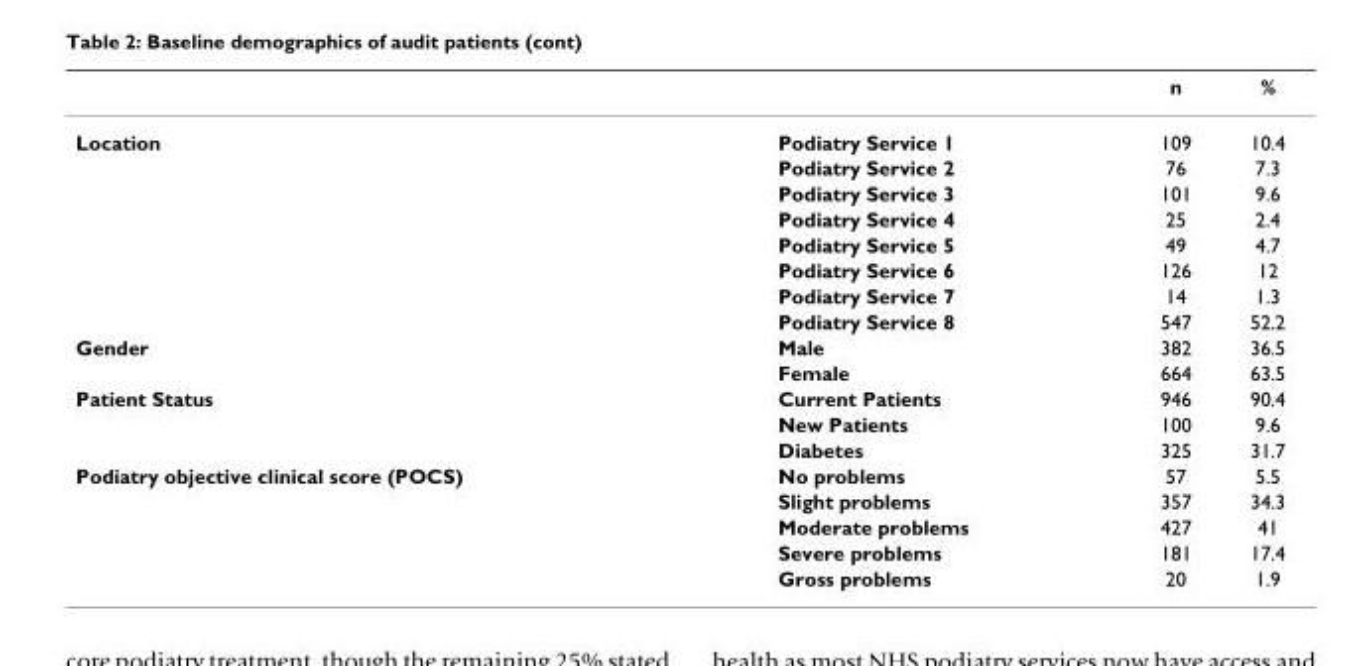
<table><thead><tr><td></td><td></td><td>n</td><td>%</td></tr></thead><tbody><tr><td rowspan="8">Location</td><td>Podiatry Service 1</td><td>109</td><td>10.4</td></tr><tr><td>Podiatry Service 2</td><td>76</td><td>7.3</td></tr><tr><td>Podiatry Service 3</td><td>101</td><td>9.6</td></tr><tr><td>Podiatry Service 4</td><td>25</td><td>2.4</td></tr><tr><td>Podiatry Service 5</td><td>49</td><td>4.7</td></tr><tr><td>Podiatry Service 6</td><td>126</td><td>12</td></tr><tr><td>Podiatry Service 7</td><td>14</td><td>1.3</td></tr><tr><td>Podiatry Service 8</td><td>547</td><td>52.2</td></tr><tr><td rowspan="2">Gender</td><td>Male</td><td>382</td><td>36.5</td></tr><tr><td>Female</td><td>664</td><td>63.5</td></tr><tr><td rowspan="3">Patient Status</td><td>Current Patients</td><td>946</td><td>90.4</td></tr><tr><td>New Patients</td><td>100</td><td>9.6</td></tr><tr><td>Diabetes</td><td>325</td><td>31.7</td></tr><tr><td rowspan="5">Podiatry objective clinical score (POCS)</td><td>No problems</td><td>57</td><td>5.5</td></tr><tr><td>Slight problems</td><td>357</td><td>34.3</td></tr><tr><td>Moderate problems</td><td>427</td><td>41</td></tr><tr><td>Severe problems</td><td>181</td><td>17.4</td></tr><tr><td>Gross problems</td><td>20</td><td>1.9</td></tr></tbody></table>